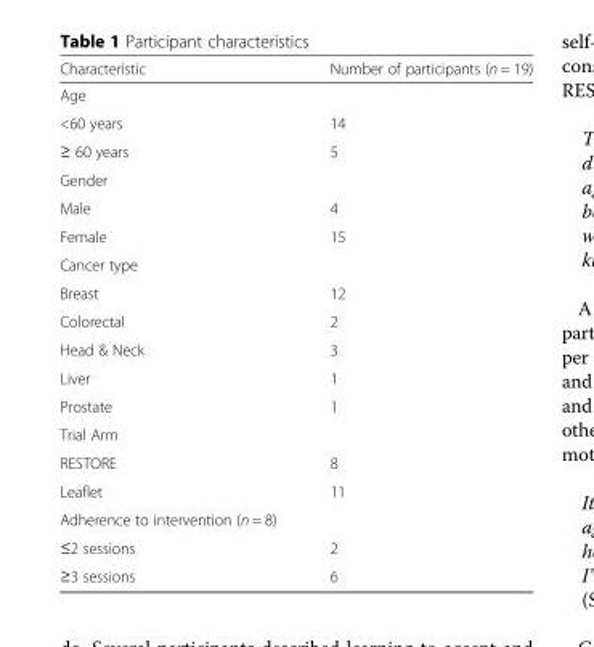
<table><thead><tr><td>Characteristic</td><td>Number of participants (n = 19)</td></tr></thead><tbody><tr><td colspan="2">Age</td></tr><tr><td>&lt;60 years</td><td>14</td></tr><tr><td>≥ 60 years</td><td>5</td></tr><tr><td colspan="2">Gender</td></tr><tr><td>Male</td><td>4</td></tr><tr><td>Female</td><td>15</td></tr><tr><td colspan="2">Cancer type</td></tr><tr><td>Breast</td><td>12</td></tr><tr><td>Colorectal</td><td>2</td></tr><tr><td>Head &amp; Neck</td><td>3</td></tr><tr><td>Liver</td><td>1</td></tr><tr><td>Prostate</td><td>1</td></tr><tr><td colspan="2">Trial Arm</td></tr><tr><td>RESTORE</td><td>8</td></tr><tr><td>Leaflet</td><td>11</td></tr><tr><td colspan="2">Adherence to intervention (n = 8)</td></tr><tr><td>≤2 sessions</td><td>2</td></tr><tr><td>≥3 sessions</td><td>6</td></tr></tbody></table>